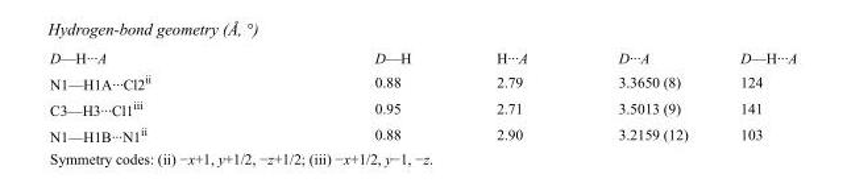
<table><tbody><tr><td>D—H···A</td><td>D—H</td><td>H···A</td><td>D···A</td><td>D—H···A</td></tr><tr><td>N1—H1A···Cl2<sup>ii</sup></td><td>0.88</td><td>2.79</td><td>3.3650 (8)</td><td>124</td></tr><tr><td>C3—H3···Cl1<sup>iii</sup></td><td>0.95</td><td>2.71</td><td>3.5013 (9)</td><td>141</td></tr><tr><td>N1—H1B···N1<sup>ii</sup></td><td>0.88</td><td>2.90</td><td>3.2159 (12)</td><td>103</td></tr></tbody></table>